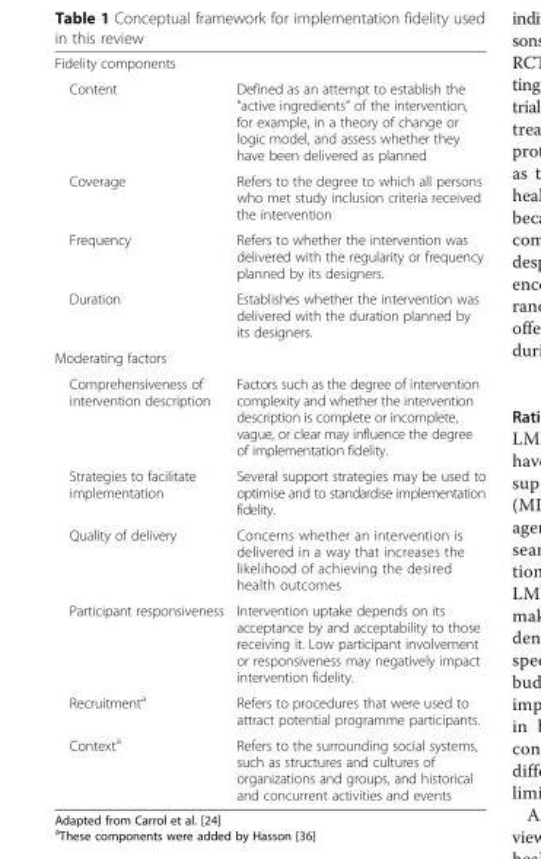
<table><tbody><tr><td colspan="2">Fidelity components</td></tr><tr><td>Content</td><td>Defined as an attempt to establish the “active ingredients” of the intervention, for example, in a theory of change or logic model, and assess whether they have been delivered as planned</td></tr><tr><td>Coverage</td><td>Refers to the degree to which all persons who met study inclusion criteria received the intervention</td></tr><tr><td>Frequency</td><td>Refers to whether the intervention was delivered with the regularity or frequency planned by its designers.</td></tr><tr><td>Duration</td><td>Establishes whether the intervention was delivered with the duration planned by its designers.</td></tr><tr><td colspan="2">Moderating factors</td></tr><tr><td>Comprehensiveness of intervention description</td><td>Factors such as the degree of intervention complexity and whether the intervention description is complete or incomplete, vague, or clear may influence the degree of implementation fidelity.</td></tr><tr><td>Strategies to facilitate implementation</td><td>Several support strategies may be used to optimise and to standardise implementation fidelity.</td></tr><tr><td>Quality of delivery</td><td>Concerns whether an intervention is delivered in a way that increases the likelihood of achieving the desired health outcomes</td></tr><tr><td>Participant responsiveness</td><td>Intervention uptake depends on its acceptance by and acceptability to those receiving it. Low participant involvement or responsiveness may negatively impact intervention fidelity.</td></tr><tr><td>Recruitment<sup>a</sup></td><td>Refers to procedures that were used to attract potential programme participants.</td></tr><tr><td>Context<sup>a</sup></td><td>Refers to the surrounding social systems, such as structures and cultures of organizations and groups, and historical and concurrent activities and events</td></tr></tbody></table>